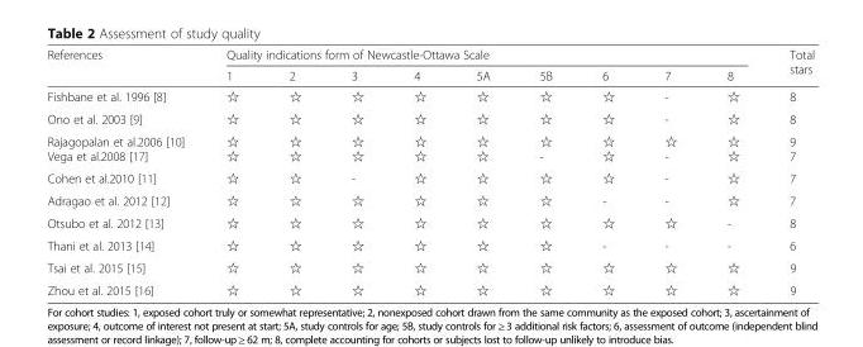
<table><thead><tr><td rowspan="2">References</td><td colspan="9">Quality indications form of Newcastle-Ottawa Scale</td><td rowspan="2">Total stars</td></tr><tr><td>1</td><td>2</td><td>3</td><td>4</td><td>5A</td><td>5B</td><td>6</td><td>7</td><td>8</td></tr></thead><tbody><tr><td>Fishbane et al. 1996 [8]</td><td>☆</td><td>☆</td><td>☆</td><td>☆</td><td>☆</td><td>☆</td><td>☆</td><td>-</td><td>☆</td><td>8</td></tr><tr><td>Ono et al. 2003 [9]</td><td>☆</td><td>☆</td><td>☆</td><td>☆</td><td>☆</td><td>☆</td><td>☆</td><td>-</td><td>☆</td><td>8</td></tr><tr><td>Rajagopalan et al.2006 [10] Vega et al.2008 [17]</td><td>☆ ☆</td><td>☆ ☆</td><td>☆ ☆</td><td>☆ ☆</td><td>☆ ☆</td><td>☆ -</td><td>☆ ☆</td><td>☆ -</td><td>☆ ☆</td><td>9 7</td></tr><tr><td>Cohen et al.2010 [11]</td><td>☆</td><td>☆</td><td>-</td><td>☆</td><td>☆</td><td>☆</td><td>☆</td><td>-</td><td>☆</td><td>7</td></tr><tr><td>Adragao et al. 2012 [12]</td><td>☆</td><td>☆</td><td>☆</td><td>☆</td><td>☆</td><td>☆</td><td>-</td><td>-</td><td>☆</td><td>7</td></tr><tr><td>Otsubo et al. 2012 [13]</td><td>☆</td><td>☆</td><td>☆</td><td>☆</td><td>☆</td><td>☆</td><td>☆</td><td>☆</td><td>-</td><td>8</td></tr><tr><td>Thani et al. 2013 [14]</td><td>☆</td><td>☆</td><td>☆</td><td>☆</td><td>☆</td><td>☆</td><td>-</td><td>-</td><td>-</td><td>6</td></tr><tr><td>Tsai et al. 2015 [15]</td><td>☆</td><td>☆</td><td>☆</td><td>☆</td><td>☆</td><td>☆</td><td>☆</td><td>☆</td><td>☆</td><td>9</td></tr><tr><td>Zhou et al. 2015 [16]</td><td>☆</td><td>☆</td><td>☆</td><td>☆</td><td>☆</td><td>☆</td><td>☆</td><td>☆</td><td>☆</td><td>9</td></tr></tbody></table>